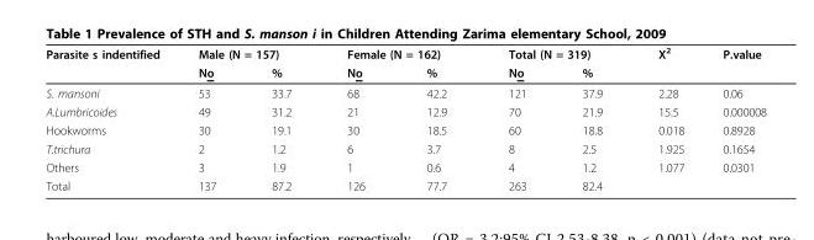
<table><thead><tr><td rowspan="2">Parasite s indentified</td><td colspan="2">Male (N = 157)</td><td colspan="2">Female (N = 162)</td><td colspan="2">Total (N = 319)</td><td rowspan="2">X<sup>2</sup></td><td rowspan="2">P.value</td></tr><tr><td>No</td><td>%</td><td>No</td><td>%</td><td>No</td><td>%</td></tr></thead><tbody><tr><td>S. mansoni</td><td>53</td><td>33.7</td><td>68</td><td>42.2</td><td>121</td><td>37.9</td><td>2.28</td><td>0.06</td></tr><tr><td>A.Lumbricoides</td><td>49</td><td>31.2</td><td>21</td><td>12.9</td><td>70</td><td>21.9</td><td>15.5</td><td>0.000008</td></tr><tr><td>Hookworms</td><td>30</td><td>19.1</td><td>30</td><td>18.5</td><td>60</td><td>18.8</td><td>0.018</td><td>0.8928</td></tr><tr><td>T.trichura</td><td>2</td><td>1.2</td><td>6</td><td>3.7</td><td>8</td><td>2.5</td><td>1.925</td><td>0.1654</td></tr><tr><td>Others</td><td>3</td><td>1.9</td><td>1</td><td>0.6</td><td>4</td><td>1.2</td><td>1.077</td><td>0.0301</td></tr><tr><td>Total</td><td>137</td><td>87.2</td><td>126</td><td>77.7</td><td>263</td><td>82.4</td><td></td><td></td></tr></tbody></table>